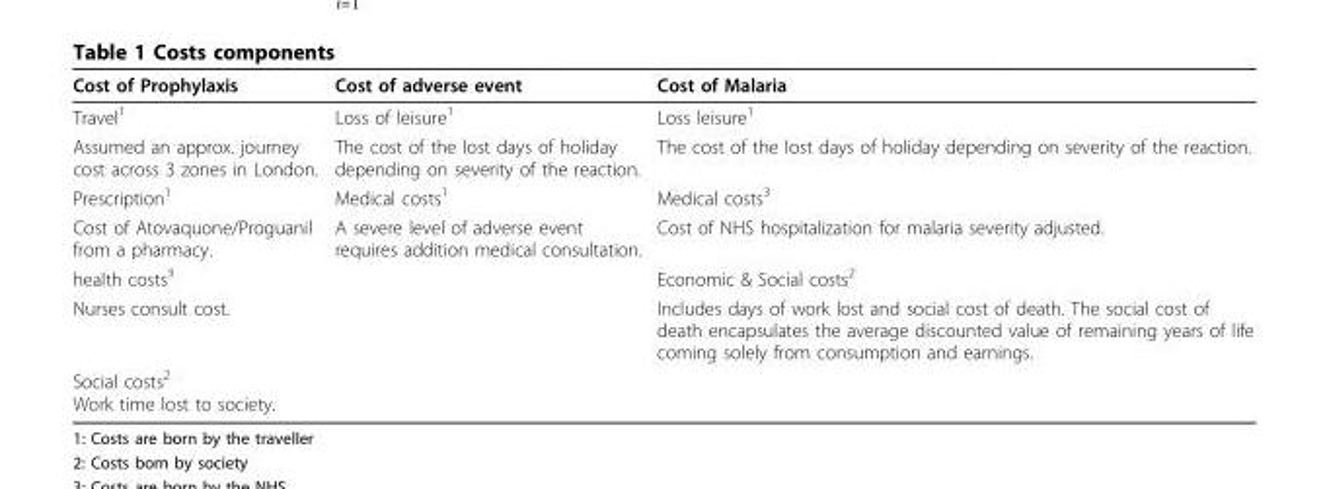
<table><thead><tr><td>Cost of Prophylaxis</td><td>Cost of adverse event</td><td>Cost of Malaria</td></tr></thead><tbody><tr><td>Travel<sup>1</sup></td><td>Loss of leisure<sup>1</sup></td><td>Loss leisure<sup>1</sup></td></tr><tr><td>Assumed an approx. journey cost across 3 zones in London.</td><td>The cost of the lost days of holiday depending on severity of the reaction.</td><td>The cost of the lost days of holiday depending on severity of the reaction.</td></tr><tr><td>Prescription<sup>1</sup></td><td>Medical costs<sup>1</sup></td><td>Medical costs<sup>3</sup></td></tr><tr><td>Cost of Atovaquone/Proguanil from a pharmacy.</td><td>A severe level of adverse event requires addition medical consultation.</td><td>Cost of NHS hospitalization for malaria severity adjusted.</td></tr><tr><td>health costs<sup>3</sup></td><td></td><td>Economic &amp; Social costs<sup>2</sup></td></tr><tr><td>Nurses consult cost.</td><td></td><td>Includes days of work lost and social cost of death. The social cost of death encapsulates the average discounted value of remaining years of life coming solely from consumption and earnings.</td></tr><tr><td>Social costs<sup>2</sup> Work time lost to society.</td><td></td><td></td></tr></tbody></table>